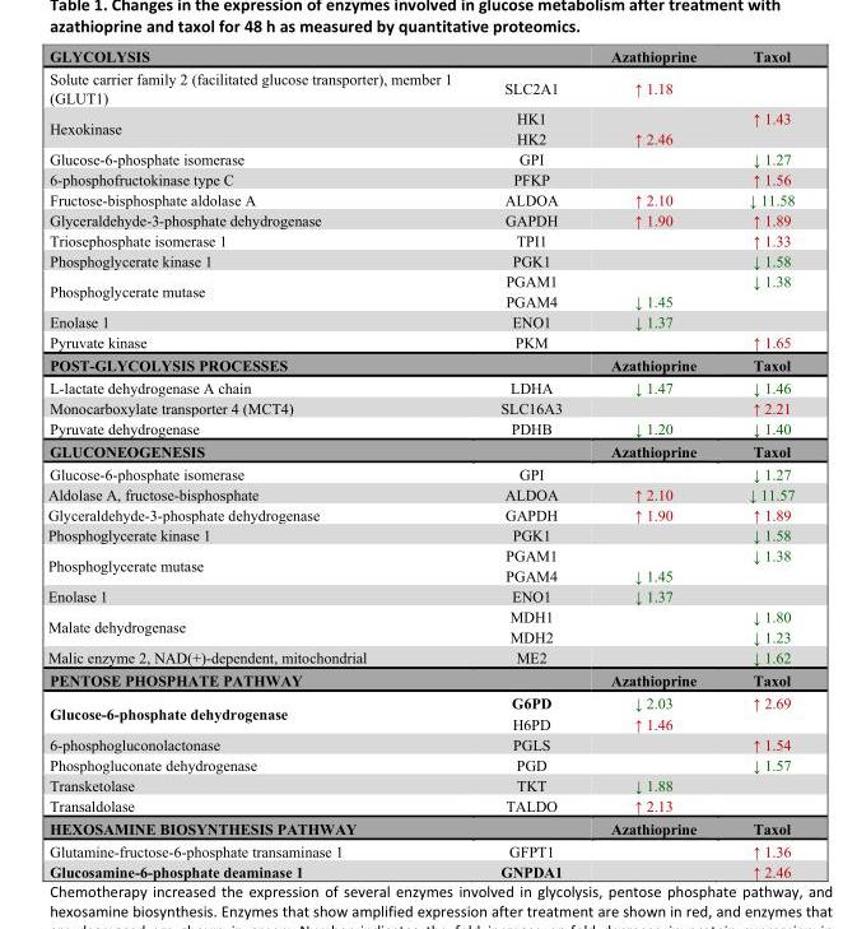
<table><tbody><tr><td>GLYCOLYSIS</td><td></td><td>Azathioprine</td><td>Taxol</td></tr><tr><td>Solute carrier family 2 (facilitated glucose transporter), member 1 (GLUT1)</td><td>SLC2A1</td><td>↑ 1.18</td><td></td></tr><tr><td rowspan="2">Hexokinase</td><td>HK1</td><td></td><td>↑ 1.43</td></tr><tr><td>HK2</td><td>↑ 2.46</td><td></td></tr><tr><td>Glucose-6-phosphate isomerase</td><td>GPI</td><td></td><td>↓ 1.27</td></tr><tr><td>6-phosphofructokinase type C</td><td>PFKP</td><td></td><td>↑ 1.56</td></tr><tr><td>Fructose-bisphosphate aldolase A</td><td>ALDOA</td><td>↑ 2.10</td><td>↓ 11.58</td></tr><tr><td>Glyceraldehyde-3-phosphate dehydrogenase</td><td>GAPDH</td><td>↑ 1.90</td><td>↑ 1.89</td></tr><tr><td>Triosephosphate isomerase 1</td><td>TPI1</td><td></td><td>↑ 1.33</td></tr><tr><td>Phosphoglycerate kinase 1</td><td>PGK1</td><td></td><td>↓ 1.58</td></tr><tr><td rowspan="2">Phosphoglycerate mutase</td><td>PGAM1</td><td></td><td>↓ 1.38</td></tr><tr><td>PGAM4</td><td>↓ 1.45</td><td></td></tr><tr><td>Enolase 1</td><td>ENO1</td><td>↓ 1.37</td><td></td></tr><tr><td>Pyruvate kinase</td><td>PKM</td><td></td><td>↑ 1.65</td></tr><tr><td>POST-GLYCOLYSIS PROCESSES</td><td></td><td>Azathioprine</td><td>Taxol</td></tr><tr><td>L-lactate dehydrogenase A chain</td><td>LDHA</td><td>↓ 1.47</td><td>↓ 1.46</td></tr><tr><td>Monocarboxylate transporter 4 (MCT4)</td><td>SLC16A3</td><td></td><td>↑ 2.21</td></tr><tr><td>Pyruvate dehydrogenase</td><td>PDHB</td><td>↓ 1.20</td><td>↓ 1.40</td></tr><tr><td>GLUCONEOGENESIS</td><td></td><td>Azathioprine</td><td>Taxol</td></tr><tr><td>Glucose-6-phosphate isomerase</td><td>GPI</td><td></td><td>↓ 1.27</td></tr><tr><td>Aldolase A, fructose-bisphosphate</td><td>ALDOA</td><td>↑ 2.10</td><td>↓ 11.57</td></tr><tr><td>Glyceraldehyde-3-phosphate dehydrogenase</td><td>GAPDH</td><td>↑ 1.90</td><td>↑ 1.89</td></tr><tr><td>Phosphoglycerate kinase 1</td><td>PGK1</td><td></td><td>↓ 1.58</td></tr><tr><td rowspan="2">Phosphoglycerate mutase</td><td>PGAM1</td><td></td><td>↓ 1.38</td></tr><tr><td>PGAM4</td><td>↓ 1.45</td><td></td></tr><tr><td>Enolase 1</td><td>ENO1</td><td>↓ 1.37</td><td></td></tr><tr><td rowspan="2">Malate dehydrogenase</td><td>MDH1</td><td></td><td>↓ 1.80</td></tr><tr><td>MDH2</td><td></td><td>↓ 1.23</td></tr><tr><td>Malic enzyme 2, NAD(+)-dependent, mitochondrial</td><td>ME2</td><td></td><td>↓ 1.62</td></tr><tr><td>PENTOSE PHOSPHATE PATHWAY</td><td></td><td>Azathioprine</td><td>Taxol</td></tr><tr><td rowspan="2">Glucose-6-phosphate dehydrogenase</td><td>G6PD</td><td>↓ 2.03</td><td>↑ 2.69</td></tr><tr><td>H6PD</td><td>↑ 1.46</td><td></td></tr><tr><td>6-phosphogluconolactonase</td><td>PGLS</td><td></td><td>↑ 1.54</td></tr><tr><td>Phosphogluconate dehydrogenase</td><td>PGD</td><td></td><td>↓ 1.57</td></tr><tr><td>Transketolase</td><td>TKT</td><td>↓ 1.88</td><td></td></tr><tr><td>Transaldolase</td><td>TALDO</td><td>↑ 2.13</td><td></td></tr><tr><td>HEXOSAMINE BIOSYNTHESIS PATHWAY</td><td></td><td>Azathioprine</td><td>Taxol</td></tr><tr><td>Glutamine-fructose-6-phosphate transaminase 1</td><td>GFPT1</td><td></td><td>↑ 1.36</td></tr><tr><td>Glucosamine-6-phosphate deaminase 1</td><td>GNPDA1</td><td></td><td>↑ 2.46</td></tr></tbody></table>